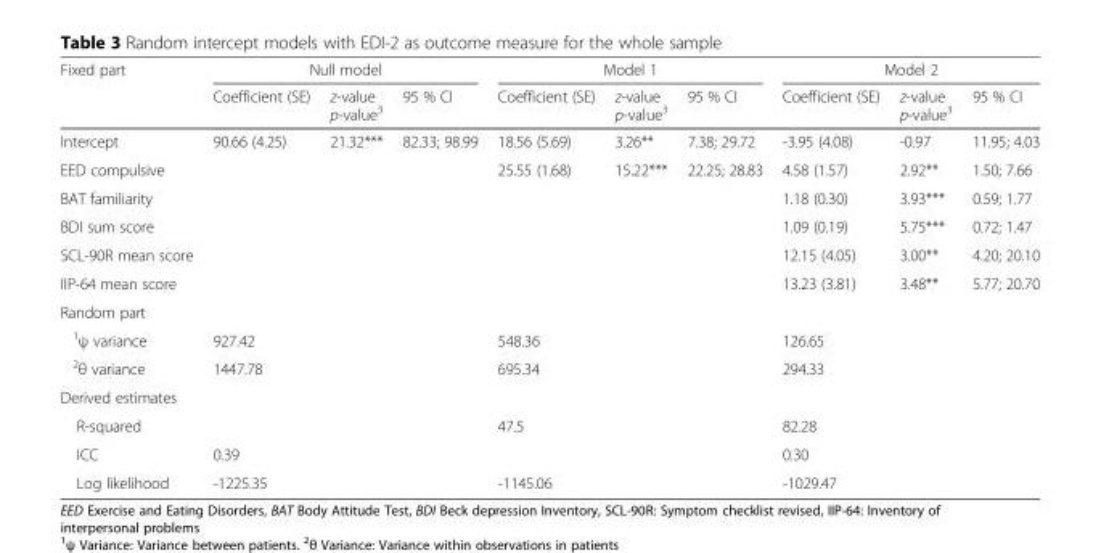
<table><thead><tr><td rowspan="2">Fixed part</td><td colspan="3">Null model</td><td colspan="3">Model 1</td><td colspan="3">Model 2</td></tr><tr><td>Coefficient (SE)</td><td>z-value p-value<sup>3</sup></td><td>95 % CI</td><td>Coefficient (SE)</td><td>z-value p-value<sup>3</sup></td><td>95 % CI</td><td>Coefficient (SE)</td><td>z-value p-value<sup>3</sup></td><td>95 % CI</td></tr></thead><tbody><tr><td>Intercept</td><td>90.66 (4.25)</td><td>21.32***</td><td>82.33; 98.99</td><td>18.56 (5.69)</td><td>3.26**</td><td>7.38; 29.72</td><td>-3.95 (4.08)</td><td>-0.97</td><td>11.95; 4.03</td></tr><tr><td>EED compulsive</td><td></td><td></td><td></td><td>25.55 (1.68)</td><td>15.22***</td><td>22.25; 28.83</td><td>4.58 (1.57)</td><td>2.92**</td><td>1.50; 7.66</td></tr><tr><td>BAT familiarity</td><td></td><td></td><td></td><td></td><td></td><td></td><td>1.18 (0.30)</td><td>3.93***</td><td>0.59; 1.77</td></tr><tr><td>BDI sum score</td><td></td><td></td><td></td><td></td><td></td><td></td><td>1.09 (0.19)</td><td>5.75***</td><td>0.72; 1.47</td></tr><tr><td>SCL-90R mean score</td><td></td><td></td><td></td><td></td><td></td><td></td><td>12.15 (4.05)</td><td>3.00**</td><td>4.20; 20.10</td></tr><tr><td>IIP-64 mean score</td><td></td><td></td><td></td><td></td><td></td><td></td><td>13.23 (3.81)</td><td>3.48**</td><td>5.77; 20.70</td></tr><tr><td colspan="10">Random part</td></tr><tr><td><sup>1</sup>ψ variance</td><td>927.42</td><td></td><td></td><td>548.36</td><td></td><td></td><td>126.65</td><td></td><td></td></tr><tr><td><sup>2</sup>θ variance</td><td>1447.78</td><td></td><td></td><td>695.34</td><td></td><td></td><td>294.33</td><td></td><td></td></tr><tr><td colspan="10">Derived estimates</td></tr><tr><td>R-squared</td><td></td><td></td><td></td><td>47.5</td><td></td><td></td><td>82.28</td><td></td><td></td></tr><tr><td>ICC</td><td>0.39</td><td></td><td></td><td></td><td></td><td></td><td>0.30</td><td></td><td></td></tr><tr><td>Log likelihood</td><td>-1225.35</td><td></td><td></td><td>-1145.06</td><td></td><td></td><td>-1029.47</td><td></td><td></td></tr></tbody></table>